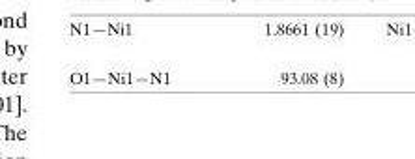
<table><tbody><tr><td>O1—Ni1—N1</td><td>93.08 (8)</td></tr></tbody></table>